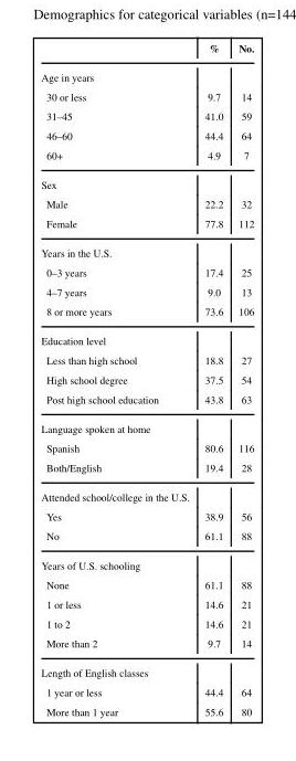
<table><thead><tr><td></td><td>%</td><td>No.</td></tr></thead><tbody><tr><td colspan="3">Age in years</td></tr><tr><td>30 or less</td><td>9.7</td><td>14</td></tr><tr><td>31–45</td><td>41.0</td><td>59</td></tr><tr><td>46–60</td><td>44.4</td><td>64</td></tr><tr><td>60+</td><td>4.9</td><td>7</td></tr><tr><td colspan="3">Sex</td></tr><tr><td>Male</td><td>22.2</td><td>32</td></tr><tr><td>Female</td><td>77.8</td><td>112</td></tr><tr><td colspan="3">Years in the U.S.</td></tr><tr><td>0–3 years</td><td>17.4</td><td>25</td></tr><tr><td>4–7 years</td><td>9.0</td><td>13</td></tr><tr><td>8 or more years</td><td>73.6</td><td>106</td></tr><tr><td colspan="3">Education level</td></tr><tr><td>Less than high school</td><td>18.8</td><td>27</td></tr><tr><td>High school degree</td><td>37.5</td><td>54</td></tr><tr><td>Post high school education</td><td>43.8</td><td>63</td></tr><tr><td colspan="3">Language spoken at home</td></tr><tr><td>Spanish</td><td>80.6</td><td>116</td></tr><tr><td>Both/English</td><td>19.4</td><td>28</td></tr><tr><td colspan="3">Attended school/college in the U.S.</td></tr><tr><td>Yes</td><td>38.9</td><td>56</td></tr><tr><td>No</td><td>61.1</td><td>88</td></tr><tr><td colspan="3">Years of U.S. schooling</td></tr><tr><td>None</td><td>61.1</td><td>88</td></tr><tr><td>1 or less</td><td>14.6</td><td>21</td></tr><tr><td>1 to 2</td><td>14.6</td><td>21</td></tr><tr><td>More than 2</td><td>9.7</td><td>14</td></tr><tr><td colspan="3">Length of English classes</td></tr><tr><td>1 year or less</td><td>44.4</td><td>64</td></tr><tr><td>More than 1 year</td><td>55.6</td><td>80</td></tr></tbody></table>